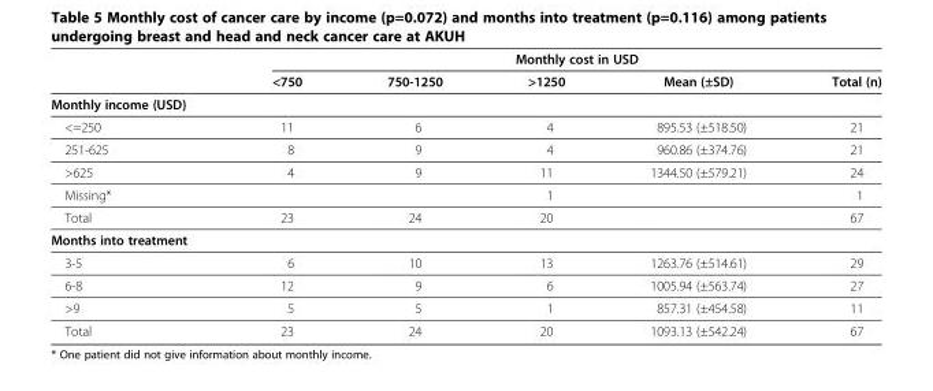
<table><thead><tr><td rowspan="2"></td><td colspan="5">Monthly cost in USD</td></tr><tr><td>&lt;750</td><td>750-1250</td><td>&gt;1250</td><td>Mean (±SD)</td><td>Total (n)</td></tr></thead><tbody><tr><td colspan="6">Monthly income (USD)</td></tr><tr><td>&lt;=250</td><td>11</td><td>6</td><td>4</td><td>895.53 (±518.50)</td><td>21</td></tr><tr><td>251-625</td><td>8</td><td>9</td><td>4</td><td>960.86 (±374.76)</td><td>21</td></tr><tr><td>&gt;625</td><td>4</td><td>9</td><td>11</td><td>1344.50 (±579.21)</td><td>24</td></tr><tr><td>Missing*</td><td></td><td></td><td>1</td><td></td><td>1</td></tr><tr><td>Total</td><td>23</td><td>24</td><td>20</td><td></td><td>67</td></tr><tr><td colspan="6">Months into treatment</td></tr><tr><td>3-5</td><td>6</td><td>10</td><td>13</td><td>1263.76 (±514.61)</td><td>29</td></tr><tr><td>6-8</td><td>12</td><td>9</td><td>6</td><td>1005.94 (±563.74)</td><td>27</td></tr><tr><td>&gt;9</td><td>5</td><td>5</td><td>1</td><td>857.31 (±454.58)</td><td>11</td></tr><tr><td>Total</td><td>23</td><td>24</td><td>20</td><td>1093.13 (±542.24)</td><td>67</td></tr></tbody></table>